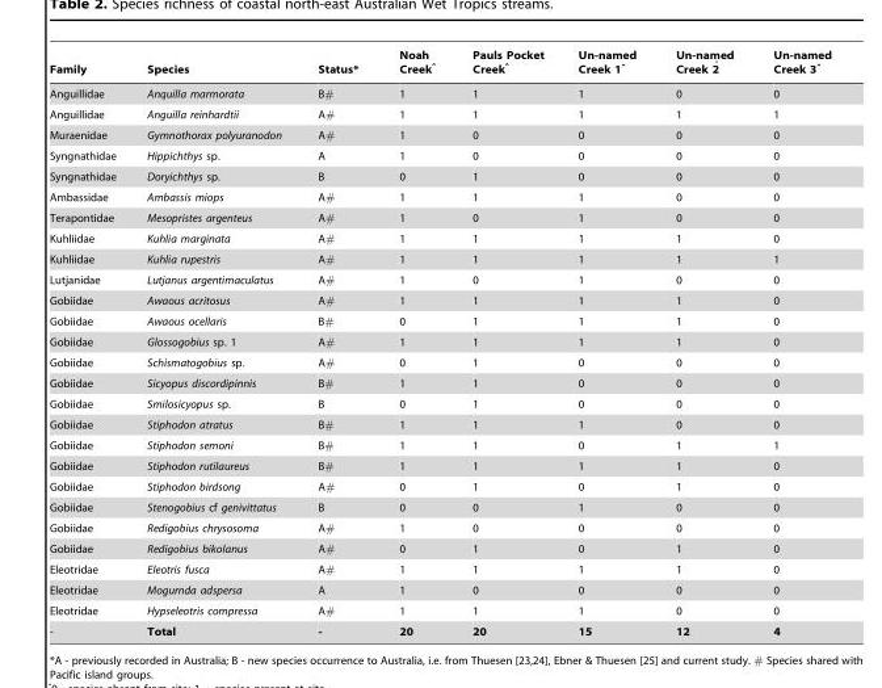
<table><thead><tr><td>Family</td><td>Species</td><td>Status*</td><td>Noah Creekˆ</td><td>Pauls Pocket Creekˆ</td><td>Un-named Creek 1ˆ</td><td>Un-named Creek 2 ˆ</td><td>Un-named Creek 3ˆ</td></tr></thead><tbody><tr><td>Anguillidae</td><td>Anquilla marmorata</td><td>B#</td><td>1</td><td>1</td><td>1</td><td>0</td><td>0</td></tr><tr><td>Anguillidae</td><td>Anguilla reinhardtii</td><td>A#</td><td>1</td><td>1</td><td>1</td><td>1</td><td>1</td></tr><tr><td>Muraenidae</td><td>Gymnothorax polyuranodon</td><td>A#</td><td>1</td><td>0</td><td>0</td><td>0</td><td>0</td></tr><tr><td>Syngnathidae</td><td>Hippichthys sp.</td><td>A</td><td>1</td><td>0</td><td>0</td><td>0</td><td>0</td></tr><tr><td>Syngnathidae</td><td>Doryichthys sp.</td><td>B</td><td>0</td><td>1</td><td>0</td><td>0</td><td>0</td></tr><tr><td>Ambassidae</td><td>Ambassis miops</td><td>A#</td><td>1</td><td>1</td><td>1</td><td>0</td><td>0</td></tr><tr><td>Terapontidae</td><td>Mesopristes argenteus</td><td>A#</td><td>1</td><td>0</td><td>1</td><td>0</td><td>0</td></tr><tr><td>Kuhliidae</td><td>Kuhlia marginata</td><td>A#</td><td>1</td><td>1</td><td>1</td><td>1</td><td>0</td></tr><tr><td>Kuhliidae</td><td>Kuhlia rupestris</td><td>A#</td><td>1</td><td>1</td><td>1</td><td>1</td><td>1</td></tr><tr><td>Lutjanidae</td><td>Lutjanus argentimaculatus</td><td>A#</td><td>1</td><td>0</td><td>1</td><td>0</td><td>0</td></tr><tr><td>Gobiidae</td><td>Awaous acritosus</td><td>A#</td><td>1</td><td>1</td><td>1</td><td>1</td><td>0</td></tr><tr><td>Gobiidae</td><td>Awaous ocellaris</td><td>B#</td><td>0</td><td>1</td><td>1</td><td>1</td><td>0</td></tr><tr><td>Gobiidae</td><td>Glossogobius sp. 1</td><td>A#</td><td>1</td><td>1</td><td>1</td><td>1</td><td>0</td></tr><tr><td>Gobiidae</td><td>Schismatogobius sp.</td><td>A#</td><td>0</td><td>1</td><td>0</td><td>0</td><td>0</td></tr><tr><td>Gobiidae</td><td>Sicyopus discordipinnis</td><td>B#</td><td>1</td><td>1</td><td>0</td><td>0</td><td>0</td></tr><tr><td>Gobiidae</td><td>Smilosicyopus sp.</td><td>B</td><td>0</td><td>1</td><td>0</td><td>0</td><td>0</td></tr><tr><td>Gobiidae</td><td>Stiphodon atratus</td><td>B#</td><td>1</td><td>1</td><td>1</td><td>0</td><td>0</td></tr><tr><td>Gobiidae</td><td>Stiphodon semoni</td><td>B#</td><td>1</td><td>1</td><td>0</td><td>1</td><td>1</td></tr><tr><td>Gobiidae</td><td>Stiphodon rutilaureus</td><td>B#</td><td>1</td><td>1</td><td>1</td><td>1</td><td>0</td></tr><tr><td>Gobiidae</td><td>Stiphodon birdsong</td><td>A#</td><td>0</td><td>1</td><td>0</td><td>1</td><td>0</td></tr><tr><td>Gobiidae</td><td>Stenogobius cf genivittatus</td><td>B</td><td>0</td><td>0</td><td>1</td><td>0</td><td>0</td></tr><tr><td>Gobiidae</td><td>Redigobius chrysosoma</td><td>A#</td><td>1</td><td>0</td><td>0</td><td>0</td><td>0</td></tr><tr><td>Gobiidae</td><td>Redigobius bikolanus</td><td>A#</td><td>0</td><td>1</td><td>0</td><td>1</td><td>0</td></tr><tr><td>Eleotridae</td><td>Eleotris fusca</td><td>A#</td><td>1</td><td>1</td><td>1</td><td>1</td><td>0</td></tr><tr><td>Eleotridae</td><td>Mogurnda adspersa</td><td>A</td><td>1</td><td>0</td><td>0</td><td>0</td><td>0</td></tr><tr><td>Eleotridae</td><td>Hypseleotris compressa</td><td>A#</td><td>1</td><td>1</td><td>1</td><td>0</td><td>0</td></tr><tr><td>-</td><td>Total</td><td>-</td><td>20</td><td>20</td><td>15</td><td>12</td><td>4</td></tr></tbody></table>